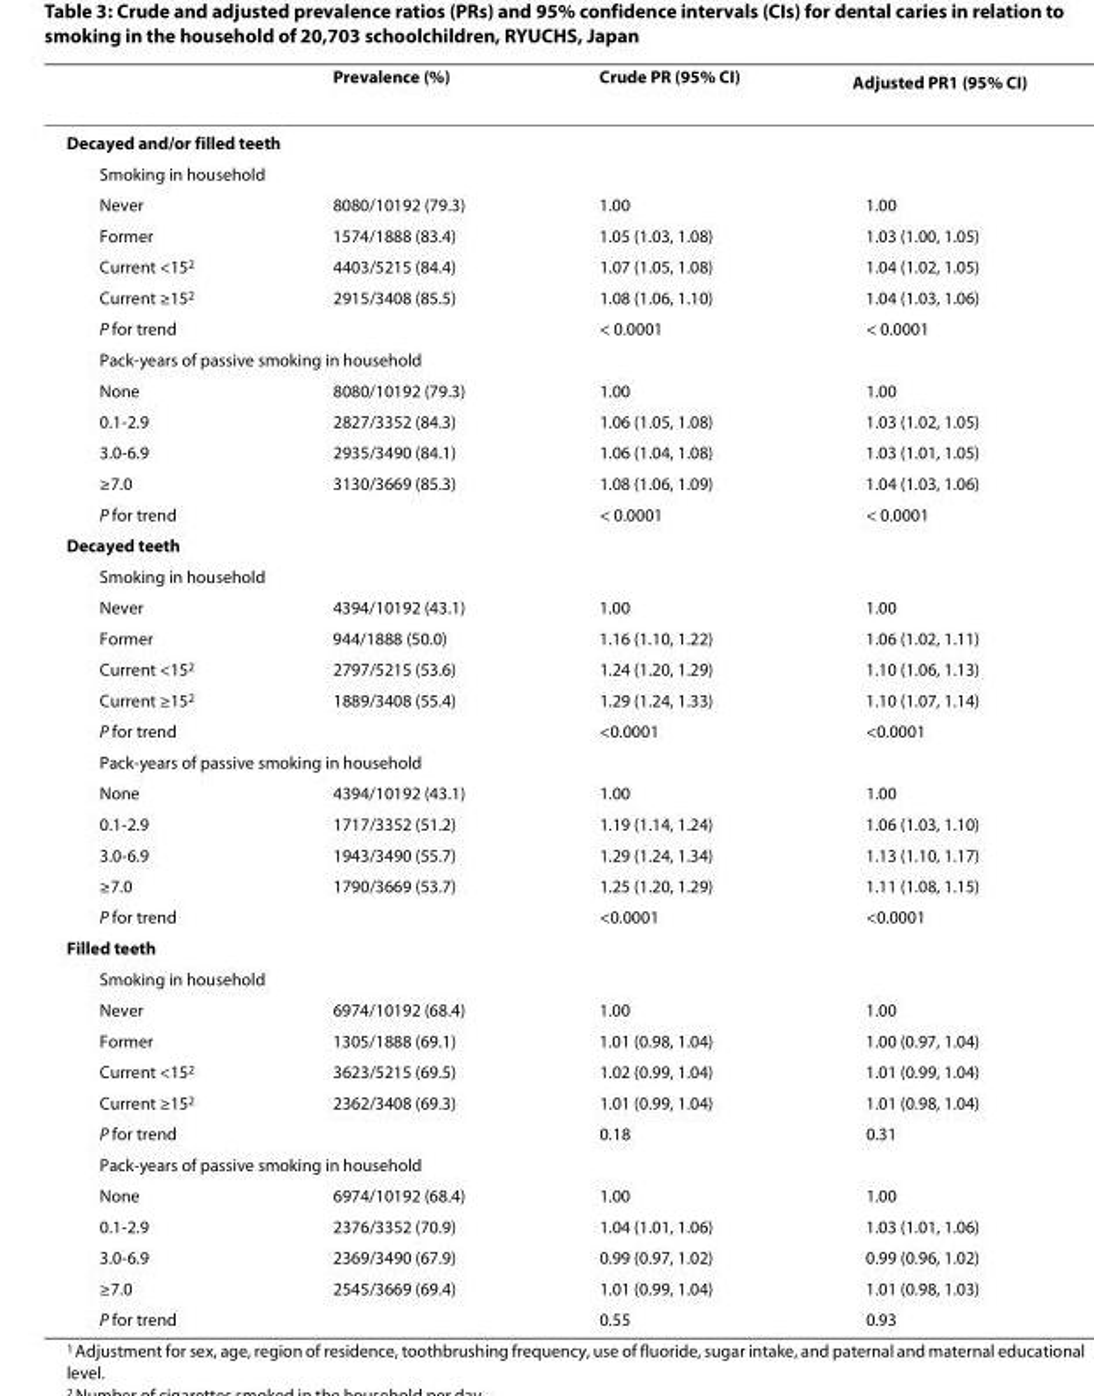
<table><thead><tr><td></td><td>Prevalence (%)</td><td>Crude PR (95% CI)</td><td>Adjusted PR<sup>1</sup> (95% CI)</td></tr></thead><tbody><tr><td colspan="4">Decayed and/or filled teeth</td></tr><tr><td colspan="4">Smoking in household</td></tr><tr><td>Never</td><td>8080/10192 (79.3)</td><td>1.00</td><td>1.00</td></tr><tr><td>Former</td><td>1574/1888 (83.4)</td><td>1.05 (1.03, 1.08)</td><td>1.03 (1.00, 1.05)</td></tr><tr><td>Current &lt;15<sup>2</sup></td><td>4403/5215 (84.4)</td><td>1.07 (1.05, 1.08)</td><td>1.04 (1.02, 1.05)</td></tr><tr><td>Current ≥15<sup>2</sup></td><td>2915/3408 (85.5)</td><td>1.08 (1.06, 1.10)</td><td>1.04 (1.03, 1.06)</td></tr><tr><td>P for trend</td><td></td><td>&lt; 0.0001</td><td>&lt; 0.0001</td></tr><tr><td colspan="4">Pack-years of passive smoking in household</td></tr><tr><td>None</td><td>8080/10192 (79.3)</td><td>1.00</td><td>1.00</td></tr><tr><td>0.1-2.9</td><td>2827/3352 (84.3)</td><td>1.06 (1.05, 1.08)</td><td>1.03 (1.02, 1.05)</td></tr><tr><td>3.0-6.9</td><td>2935/3490 (84.1)</td><td>1.06 (1.04, 1.08)</td><td>1.03 (1.01, 1.05)</td></tr><tr><td>≥7.0</td><td>3130/3669 (85.3)</td><td>1.08 (1.06, 1.09)</td><td>1.04 (1.03, 1.06)</td></tr><tr><td>P for trend</td><td></td><td>&lt; 0.0001</td><td>&lt; 0.0001</td></tr><tr><td colspan="4">Decayed teeth</td></tr><tr><td colspan="4">Smoking in household</td></tr><tr><td>Never</td><td>4394/10192 (43.1)</td><td>1.00</td><td>1.00</td></tr><tr><td>Former</td><td>944/1888 (50.0)</td><td>1.16 (1.10, 1.22)</td><td>1.06 (1.02, 1.11)</td></tr><tr><td>Current &lt;15<sup>2</sup></td><td>2797/5215 (53.6)</td><td>1.24 (1.20, 1.29)</td><td>1.10 (1.06, 1.13)</td></tr><tr><td>Current ≥15<sup>2</sup></td><td>1889/3408 (55.4)</td><td>1.29 (1.24, 1.33)</td><td>1.10 (1.07, 1.14)</td></tr><tr><td>P for trend</td><td></td><td>&lt;0.0001</td><td>&lt;0.0001</td></tr><tr><td colspan="4">Pack-years of passive smoking in household</td></tr><tr><td>None</td><td>4394/10192 (43.1)</td><td>1.00</td><td>1.00</td></tr><tr><td>0.1-2.9</td><td>1717/3352 (51.2)</td><td>1.19 (1.14, 1.24)</td><td>1.06 (1.03, 1.10)</td></tr><tr><td>3.0-6.9</td><td>1943/3490 (55.7)</td><td>1.29 (1.24, 1.34)</td><td>1.13 (1.10, 1.17)</td></tr><tr><td>≥7.0</td><td>1790/3669 (53.7)</td><td>1.25 (1.20, 1.29)</td><td>1.11 (1.08, 1.15)</td></tr><tr><td>P for trend</td><td></td><td>&lt;0.0001</td><td>&lt;0.0001</td></tr><tr><td colspan="4">Filled teeth</td></tr><tr><td colspan="4">Smoking in household</td></tr><tr><td>Never</td><td>6974/10192 (68.4)</td><td>1.00</td><td>1.00</td></tr><tr><td>Former</td><td>1305/1888 (69.1)</td><td>1.01 (0.98, 1.04)</td><td>1.00 (0.97, 1.04)</td></tr><tr><td>Current &lt;15<sup>2</sup></td><td>3623/5215 (69.5)</td><td>1.02 (0.99, 1.04)</td><td>1.01 (0.99, 1.04)</td></tr><tr><td>Current ≥15<sup>2</sup></td><td>2362/3408 (69.3)</td><td>1.01 (0.99, 1.04)</td><td>1.01 (0.98, 1.04)</td></tr><tr><td>P for trend</td><td></td><td>0.18</td><td>0.31</td></tr><tr><td colspan="4">Pack-years of passive smoking in household</td></tr><tr><td>None</td><td>6974/10192 (68.4)</td><td>1.00</td><td>1.00</td></tr><tr><td>0.1-2.9</td><td>2376/3352 (70.9)</td><td>1.04 (1.01, 1.06)</td><td>1.03 (1.01, 1.06)</td></tr><tr><td>3.0-6.9</td><td>2369/3490 (67.9)</td><td>0.99 (0.97, 1.02)</td><td>0.99 (0.96, 1.02)</td></tr><tr><td>≥7.0</td><td>2545/3669 (69.4)</td><td>1.01 (0.99, 1.04)</td><td>1.01 (0.98, 1.03)</td></tr><tr><td>P for trend</td><td></td><td>0.55</td><td>0.93</td></tr></tbody></table>